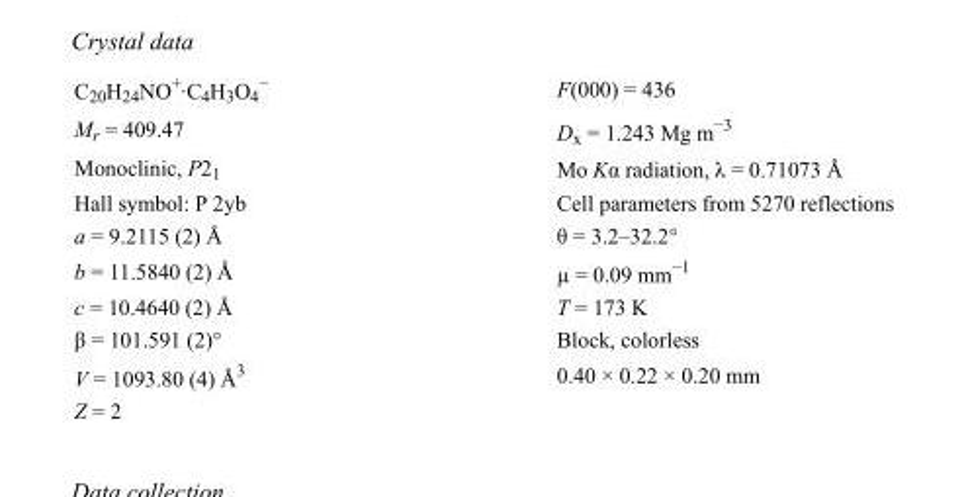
<table><tbody><tr><td>C<sub>20</sub>H<sub>24</sub>NO<sup>+</sup>·C<sub>4</sub>H<sub>3</sub>O<sub>4</sub> <sup>−</sup></td><td>F(000) = 436</td></tr><tr><td>M<sub>r</sub> = 409.47</td><td>D<sub>x</sub> = 1.243 Mg m<sup>−3</sup></td></tr><tr><td>Monoclinic, P2<sub>1</sub></td><td>Mo Kα radiation, λ = 0.71073 Å</td></tr><tr><td>Hall symbol: P 2yb</td><td>Cell parameters from 5270 reflections</td></tr><tr><td>a = 9.2115 (2) Å</td><td>θ = 3.2–32.2°</td></tr><tr><td>b = 11.5840 (2) Å</td><td>µ = 0.09 mm<sup>−1</sup></td></tr><tr><td>c = 10.4640 (2) Å</td><td>T = 173 K</td></tr><tr><td>β = 101.591 (2)°</td><td>Block, colorless</td></tr><tr><td>V = 1093.80 (4) Å<sup>3</sup></td><td>0.40 × 0.22 × 0.20 mm</td></tr><tr><td>Z = 2</td><td></td></tr></tbody></table>